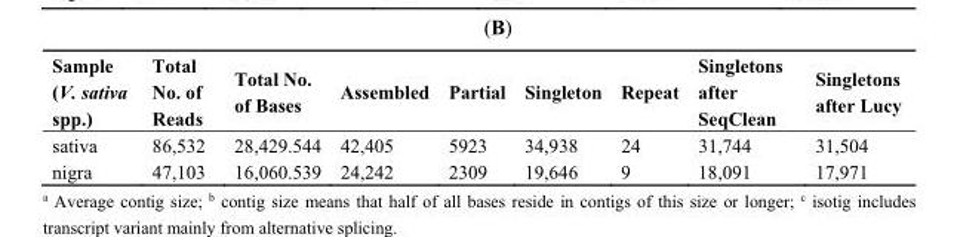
<table><thead><tr><td>Sample (V. sativa spp.)</td><td>Total No. of Reads</td><td>Total No. of Bases</td><td>Assembled</td><td>Partial</td><td>Singleton</td><td>Repeat</td><td>Singletons after SeqClean</td><td>Singletons after Lucy</td></tr></thead><tbody><tr><td>sativa</td><td>86,532</td><td>28,429.544</td><td>42,405</td><td>5923</td><td>34,938</td><td>24</td><td>31,744</td><td>31,504</td></tr><tr><td>nigra</td><td>47,103</td><td>16,060.539</td><td>24,242</td><td>2309</td><td>19,646</td><td>9</td><td>18,091</td><td>17,971</td></tr></tbody></table>